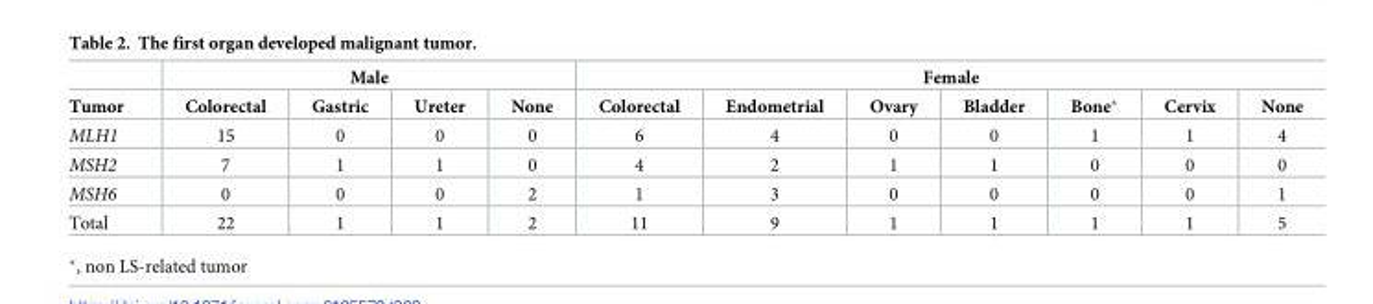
<table><thead><tr><td rowspan="2">Tumor</td><td colspan="4">Male</td><td colspan="7">Female</td></tr><tr><td>Colorectal</td><td>Gastric</td><td>Ureter</td><td>None</td><td>Colorectal</td><td>Endometrial</td><td>Ovary</td><td>Bladder</td><td>Bone*</td><td>Cervix</td><td>None</td></tr></thead><tbody><tr><td>MLH1</td><td>15</td><td>0</td><td>0</td><td>0</td><td>6</td><td>4</td><td>0</td><td>0</td><td>1</td><td>1</td><td>4</td></tr><tr><td>MSH2</td><td>7</td><td>1</td><td>1</td><td>0</td><td>4</td><td>2</td><td>1</td><td>1</td><td>0</td><td>0</td><td>0</td></tr><tr><td>MSH6</td><td>0</td><td>0</td><td>0</td><td>2</td><td>1</td><td>3</td><td>0</td><td>0</td><td>0</td><td>0</td><td>1</td></tr><tr><td>Total</td><td>22</td><td>1</td><td>1</td><td>2</td><td>11</td><td>9</td><td>1</td><td>1</td><td>1</td><td>1</td><td>5</td></tr></tbody></table>